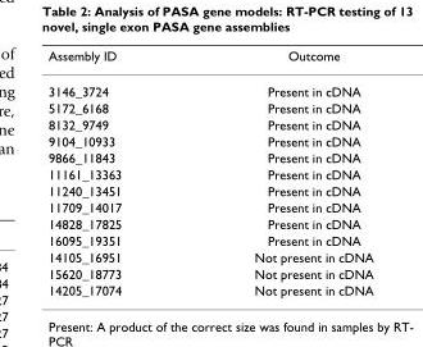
<table><thead><tr><td>Assembly ID</td><td>Outcome</td></tr></thead><tbody><tr><td>3146_3724</td><td>Present in cDNA</td></tr><tr><td>5172_6168</td><td>Present in cDNA</td></tr><tr><td>8132_9749</td><td>Present in cDNA</td></tr><tr><td>9104_10933</td><td>Present in cDNA</td></tr><tr><td>9866_11843</td><td>Present in cDNA</td></tr><tr><td>11161_13363</td><td>Present in cDNA</td></tr><tr><td>11240_13451</td><td>Present in cDNA</td></tr><tr><td>11709_14017</td><td>Present in cDNA</td></tr><tr><td>14828_17825</td><td>Present in cDNA</td></tr><tr><td>16095_19351</td><td>Present in cDNA</td></tr><tr><td>14105_16951</td><td>Not present in cDNA</td></tr><tr><td>15620_18773</td><td>Not present in cDNA</td></tr><tr><td>14205_17074</td><td>Not present in cDNA</td></tr></tbody></table>